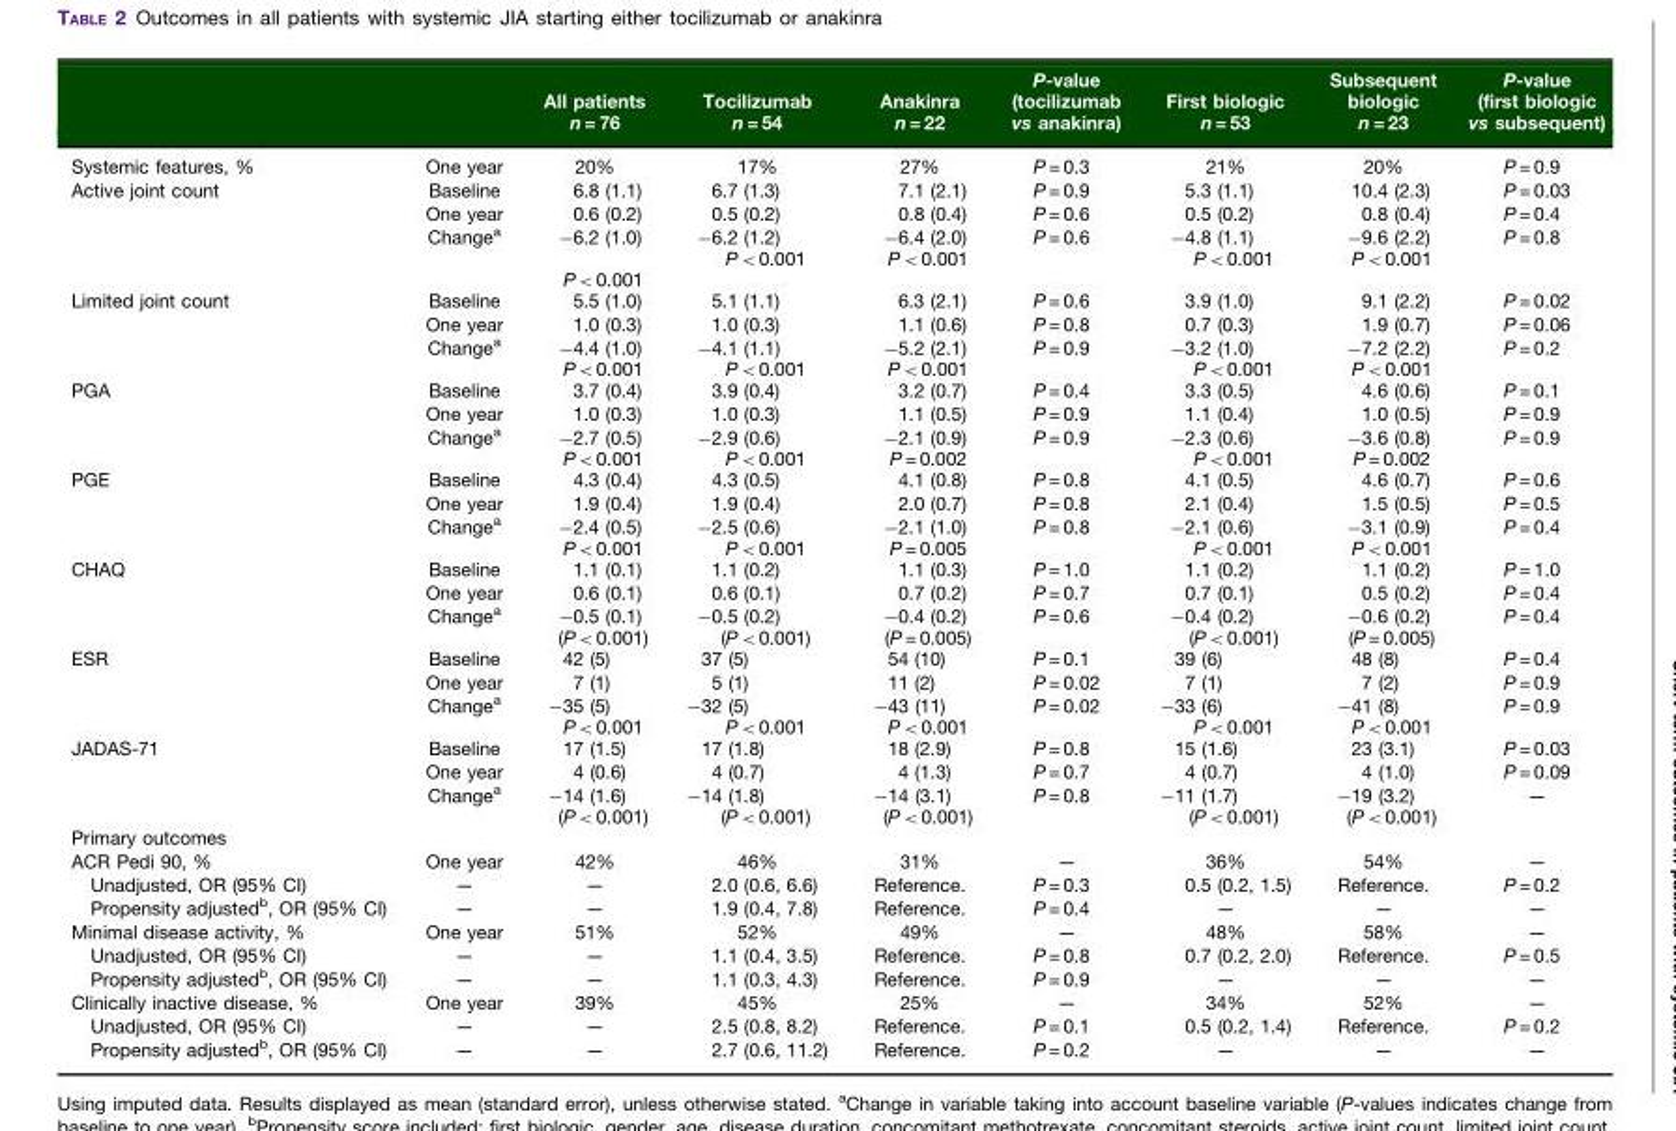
<table><thead><tr><td></td><td></td><td>All patients n = 76</td><td>Tocilizumab n = 54</td><td>Anakinra n = 22</td><td>P-value (tocilizumab vs anakinra)</td><td>First biologic n = 53</td><td>Subsequent biologic n = 23</td><td>P-value (first biologic vs subsequent)</td></tr></thead><tbody><tr><td>Systemic features, %</td><td>One year</td><td>20%</td><td>17%</td><td>27%</td><td>P = 0.3</td><td>21%</td><td>20%</td><td>P = 0.9</td></tr><tr><td rowspan="3">Active joint count</td><td>Baseline</td><td>6.8 (1.1)</td><td>6.7 (1.3)</td><td>7.1 (2.1)</td><td>P = 0.9</td><td>5.3 (1.1)</td><td>10.4 (2.3)</td><td>P = 0.03</td></tr><tr><td>One year</td><td>0.6 (0.2)</td><td>0.5 (0.2)</td><td>0.8 (0.4)</td><td>P = 0.6</td><td>0.5 (0.2)</td><td>0.8 (0.4)</td><td>P = 0.4</td></tr><tr><td>Change<sup>a</sup></td><td>−6.2 (1.0) P &lt; 0.001</td><td>−6.2 (1.2) P &lt; 0.001</td><td>−6.4 (2.0) P &lt; 0.001</td><td>P = 0.6</td><td>−4.8 (1.1) P &lt; 0.001</td><td>−9.6 (2.2) P &lt; 0.001</td><td>P = 0.8</td></tr><tr><td rowspan="3">Limited joint count</td><td>Baseline</td><td>5.5 (1.0)</td><td>5.1 (1.1)</td><td>6.3 (2.1)</td><td>P = 0.6</td><td>3.9 (1.0)</td><td>9.1 (2.2)</td><td>P = 0.02</td></tr><tr><td>One year</td><td>1.0 (0.3)</td><td>1.0 (0.3)</td><td>1.1 (0.6)</td><td>P = 0.8</td><td>0.7 (0.3)</td><td>1.9 (0.7)</td><td>P = 0.06</td></tr><tr><td>Change<sup>a</sup></td><td>−4.4 (1.0) P &lt; 0.001</td><td>−4.1 (1.1) P &lt; 0.001</td><td>−5.2 (2.1) P &lt; 0.001</td><td>P = 0.9</td><td>−3.2 (1.0) P &lt; 0.001</td><td>−7.2 (2.2) P &lt; 0.001</td><td>P = 0.2</td></tr><tr><td rowspan="3">PGA</td><td>Baseline</td><td>3.7 (0.4)</td><td>3.9 (0.4)</td><td>3.2 (0.7)</td><td>P = 0.4</td><td>3.3 (0.5)</td><td>4.6 (0.6)</td><td>P = 0.1</td></tr><tr><td>One year</td><td>1.0 (0.3)</td><td>1.0 (0.3)</td><td>1.1 (0.5)</td><td>P = 0.9</td><td>1.1 (0.4)</td><td>1.0 (0.5)</td><td>P = 0.9</td></tr><tr><td>Change<sup>a</sup></td><td>−2.7 (0.5) P &lt; 0.001</td><td>−2.9 (0.6) P &lt; 0.001</td><td>−2.1 (0.9) P = 0.002</td><td>P = 0.9</td><td>−2.3 (0.6) P &lt; 0.001</td><td>−3.6 (0.8) P = 0.002</td><td>P = 0.9</td></tr><tr><td rowspan="3">PGE</td><td>Baseline</td><td>4.3 (0.4)</td><td>4.3 (0.5)</td><td>4.1 (0.8)</td><td>P = 0.8</td><td>4.1 (0.5)</td><td>4.6 (0.7)</td><td>P = 0.6</td></tr><tr><td>One year</td><td>1.9 (0.4)</td><td>1.9 (0.4)</td><td>2.0 (0.7)</td><td>P = 0.8</td><td>2.1 (0.4)</td><td>1.5 (0.5)</td><td>P = 0.5</td></tr><tr><td>Change<sup>a</sup></td><td>−2.4 (0.5) P &lt; 0.001</td><td>−2.5 (0.6) P &lt; 0.001</td><td>−2.1 (1.0) P = 0.005</td><td>P = 0.8</td><td>−2.1 (0.6) P &lt; 0.001</td><td>−3.1 (0.9) P &lt; 0.001</td><td>P = 0.4</td></tr><tr><td rowspan="3">CHAQ</td><td>Baseline</td><td>1.1 (0.1)</td><td>1.1 (0.2)</td><td>1.1 (0.3)</td><td>P = 1.0</td><td>1.1 (0.2)</td><td>1.1 (0.2)</td><td>P = 1.0</td></tr><tr><td>One year</td><td>0.6 (0.1)</td><td>0.6 (0.1)</td><td>0.7 (0.2)</td><td>P = 0.7</td><td>0.7 (0.1)</td><td>0.5 (0.2)</td><td>P = 0.4</td></tr><tr><td>Change<sup>a</sup></td><td>−0.5 (0.1) (P &lt; 0.001)</td><td>−0.5 (0.2) (P &lt; 0.001)</td><td>−0.4 (0.2) (P = 0.005)</td><td>P = 0.6</td><td>−0.4 (0.2) (P &lt; 0.001)</td><td>−0.6 (0.2) (P = 0.005)</td><td>P = 0.4</td></tr><tr><td rowspan="3">ESR</td><td>Baseline</td><td>42 (5)</td><td>37 (5)</td><td>54 (10)</td><td>P = 0.1</td><td>39 (6)</td><td>48 (8)</td><td>P = 0.4</td></tr><tr><td>One year</td><td>7 (1)</td><td>5 (1)</td><td>11 (2)</td><td>P = 0.02</td><td>7 (1)</td><td>7 (2)</td><td>P = 0.9</td></tr><tr><td>Change<sup>a</sup></td><td>−35 (5) P &lt; 0.001</td><td>−32 (5) P &lt; 0.001</td><td>−43 (11) P &lt; 0.001</td><td>P = 0.02</td><td>−33 (6) P &lt; 0.001</td><td>−41 (8) P &lt; 0.001</td><td>P = 0.9</td></tr><tr><td rowspan="3">JADAS-71</td><td>Baseline</td><td>17 (1.5)</td><td>17 (1.8)</td><td>18 (2.9)</td><td>P = 0.8</td><td>15 (1.6)</td><td>23 (3.1)</td><td>P = 0.03</td></tr><tr><td>One year</td><td>4 (0.6)</td><td>4 (0.7)</td><td>4 (1.3)</td><td>P = 0.7</td><td>4 (0.7)</td><td>4 (1.0)</td><td>P = 0.09</td></tr><tr><td>Change<sup>a</sup></td><td>−14 (1.6) (P &lt; 0.001)</td><td>−14 (1.8) (P &lt; 0.001)</td><td>−14 (3.1) (P &lt; 0.001)</td><td>P = 0.8</td><td>−11 (1.7) (P &lt; 0.001)</td><td>−19 (3.2) (P &lt; 0.001)</td><td>—</td></tr><tr><td colspan="9">Primary outcomes</td></tr><tr><td>ACR Pedi 90, %</td><td>One year</td><td>42%</td><td>46%</td><td>31%</td><td>—</td><td>36%</td><td>54%</td><td>—</td></tr><tr><td>Unadjusted, OR (95% CI)</td><td>—</td><td>—</td><td>2.0 (0.6, 6.6)</td><td>Reference.</td><td>P = 0.3</td><td>0.5 (0.2, 1.5)</td><td>Reference.</td><td>P = 0.2</td></tr><tr><td>Propensity adjusted<sup>b</sup>, OR (95% CI)</td><td>—</td><td>—</td><td>1.9 (0.4, 7.8)</td><td>Reference.</td><td>P = 0.4</td><td>—</td><td>—</td><td>—</td></tr><tr><td>Minimal disease activity, %</td><td>One year</td><td>51%</td><td>52%</td><td>49%</td><td>—</td><td>48%</td><td>58%</td><td>—</td></tr><tr><td>Unadjusted, OR (95% CI)</td><td>—</td><td>—</td><td>1.1 (0.4, 3.5)</td><td>Reference.</td><td>P = 0.8</td><td>0.7 (0.2, 2.0)</td><td>Reference.</td><td>P = 0.5</td></tr><tr><td>Propensity adjusted<sup>b</sup>, OR (95% CI)</td><td>—</td><td>—</td><td>1.1 (0.3, 4.3)</td><td>Reference.</td><td>P = 0.9</td><td>—</td><td>—</td><td>—</td></tr><tr><td>Clinically inactive disease, %</td><td>One year</td><td>39%</td><td>45%</td><td>25%</td><td>—</td><td>34%</td><td>52%</td><td>—</td></tr><tr><td>Unadjusted, OR (95% CI)</td><td>—</td><td>—</td><td>2.5 (0.8, 8.2)</td><td>Reference.</td><td>P = 0.1</td><td>0.5 (0.2, 1.4)</td><td>Reference.</td><td>P = 0.2</td></tr><tr><td>Propensity adjusted<sup>b</sup>, OR (95% CI)</td><td>—</td><td>—</td><td>2.7 (0.6, 11.2)</td><td>Reference.</td><td>P = 0.2</td><td>—</td><td>—</td><td>—</td></tr></tbody></table>